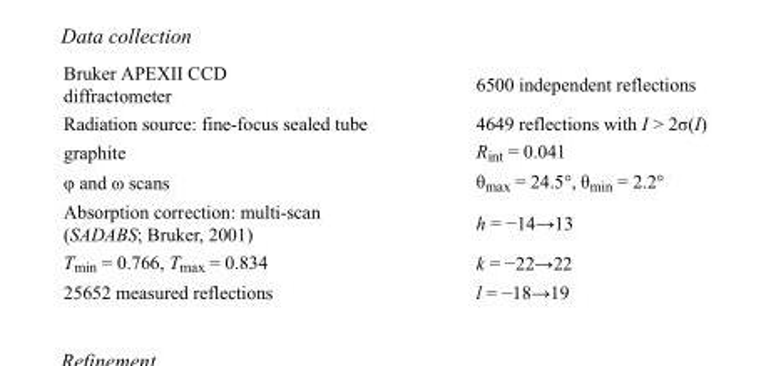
<table><tbody><tr><td>Bruker APEXII CCD diffractometer</td><td>6500 independent reflections</td></tr><tr><td>Radiation source: fine-focus sealed tube</td><td>4649 reflections with I &gt; 2σ(I)</td></tr><tr><td>graphite</td><td>R<sub>int</sub> = 0.041</td></tr><tr><td>φ and ω scans</td><td>θ<sub>max</sub> = 24.5°, θ<sub>min</sub> = 2.2°</td></tr><tr><td>Absorption correction: multi-scan (SADABS; Bruker, 2001)</td><td>h = −14→13</td></tr><tr><td>T<sub>min</sub> = 0.766, T<sub>max</sub> = 0.834</td><td>k = −22→22</td></tr><tr><td>25652 measured reflections</td><td>l = −18→19</td></tr></tbody></table>